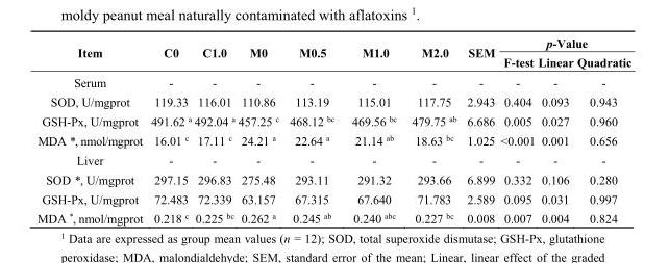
<table><thead><tr><td rowspan="2">Item</td><td rowspan="2">C0</td><td rowspan="2">C1.0</td><td rowspan="2">M0</td><td rowspan="2">M0.5</td><td rowspan="2">M1.0</td><td rowspan="2">M2.0</td><td rowspan="2">SEM</td><td colspan="3">p-Value</td></tr><tr><td>F-test</td><td>Linear</td><td>Quadratic</td></tr></thead><tbody><tr><td>Serum</td><td>-</td><td>-</td><td>-</td><td>-</td><td>-</td><td>-</td><td>-</td><td>-</td><td>-</td><td>-</td></tr><tr><td>SOD, U/mgprot</td><td>119.33</td><td>116.01</td><td>110.86</td><td>113.19</td><td>115.01</td><td>117.75</td><td>2.943</td><td>0.404</td><td>0.093</td><td>0.943</td></tr><tr><td>GSH-Px, U/mgprot</td><td>491.62 <sup>a</sup></td><td>492.04 <sup>a</sup></td><td>457.25 <sup>c</sup></td><td>468.12 <sup>bc</sup></td><td>469.56 <sup>bc</sup></td><td>479.75 <sup>ab</sup></td><td>6.686</td><td>0.005</td><td>0.027</td><td>0.960</td></tr><tr><td>MDA *, nmol/mgprot</td><td>16.01 <sup>c</sup></td><td>17.11 <sup>c</sup></td><td>24.21 <sup>a</sup></td><td>22.64 <sup>a</sup></td><td>21.14 <sup>ab</sup></td><td>18.63 <sup>bc</sup></td><td>1.025</td><td>&lt;0.001</td><td>0.001</td><td>0.656</td></tr><tr><td>Liver</td><td>-</td><td>-</td><td>-</td><td>-</td><td>-</td><td>-</td><td>-</td><td>-</td><td>-</td><td>-</td></tr><tr><td>SOD *, U/mgprot</td><td>297.15</td><td>296.83</td><td>275.48</td><td>293.11</td><td>291.32</td><td>293.66</td><td>6.899</td><td>0.332</td><td>0.106</td><td>0.280</td></tr><tr><td>GSH-Px, U/mgprot</td><td>72.483</td><td>72.339</td><td>63.157</td><td>67.315</td><td>67.640</td><td>71.783</td><td>2.589</td><td>0.095</td><td>0.031</td><td>0.997</td></tr><tr><td>MDA *, nmol/mgprot</td><td>0.218 <sup>c</sup></td><td>0.225 <sup>bc</sup></td><td>0.262 <sup>a</sup></td><td>0.245 <sup>ab</sup></td><td>0.240 <sup>abc</sup></td><td>0.227 <sup>bc</sup></td><td>0.008</td><td>0.007</td><td>0.004</td><td>0.824</td></tr></tbody></table>